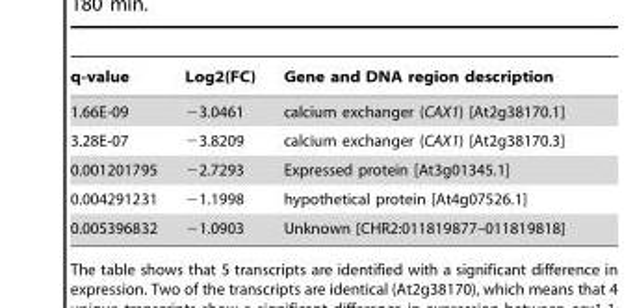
<table><thead><tr><td>q-value</td><td>Log2(FC)</td><td>Gene and DNA region description</td></tr></thead><tbody><tr><td>1.66E-09</td><td>−3.0461</td><td>calcium exchanger (CAX1) [At2g38170.1]</td></tr><tr><td>3.28E-07</td><td>−3.8209</td><td>calcium exchanger (CAX1) [At2g38170.3]</td></tr><tr><td>0.001201795</td><td>−2.7293</td><td>Expressed protein [At3g01345.1]</td></tr><tr><td>0.004291231</td><td>−1.1998</td><td>hypothetical protein [At4g07526.1]</td></tr><tr><td>0.005396832</td><td>−1.0903</td><td>Unknown [CHR2:011819877–011819818]</td></tr></tbody></table>